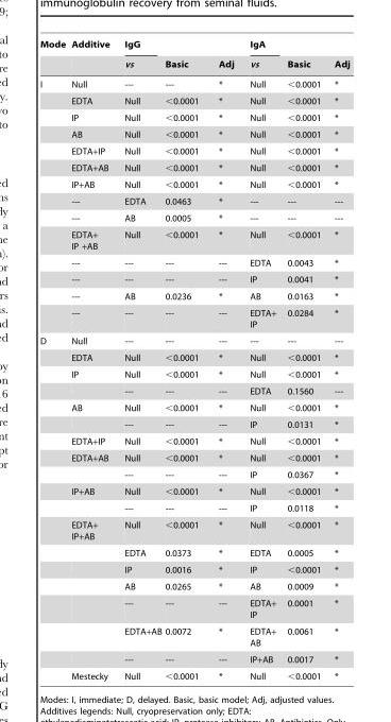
<table><thead><tr><td rowspan="2">Mode</td><td rowspan="2">Additive</td><td rowspan="2">IgG vs</td><td rowspan="2">Basic</td><td rowspan="2">Adj</td><td rowspan="2">IgA vs</td><td rowspan="2">Basic</td><td rowspan="2">Adj</td></tr><tr></tr></thead><tbody><tr><td rowspan="14">I</td><td>Null</td><td>---</td><td>---</td><td>*</td><td>Null</td><td>&lt;0.0001</td><td>*</td></tr><tr><td>EDTA</td><td>Null</td><td>&lt;0.0001</td><td>*</td><td>Null</td><td>&lt;0.0001</td><td>*</td></tr><tr><td>IP</td><td>Null</td><td>&lt;0.0001</td><td>*</td><td>Null</td><td>&lt;0.0001</td><td>*</td></tr><tr><td>AB</td><td>Null</td><td>&lt;0.0001</td><td>*</td><td>Null</td><td>&lt;0.0001</td><td>*</td></tr><tr><td>EDTA+IP</td><td>Null</td><td>&lt;0.0001</td><td>*</td><td>Null</td><td>&lt;0.0001</td><td>*</td></tr><tr><td>EDTA+AB</td><td>Null</td><td>&lt;0.0001</td><td>*</td><td>Null</td><td>&lt;0.0001</td><td>*</td></tr><tr><td>IP+AB</td><td>Null</td><td>&lt;0.0001</td><td>*</td><td>Null</td><td>&lt;0.0001</td><td>*</td></tr><tr><td>---</td><td>EDTA</td><td>0.0463</td><td>*</td><td>---</td><td>---</td><td>---</td></tr><tr><td>---</td><td>AB</td><td>0.0005</td><td>*</td><td>---</td><td>---</td><td>---</td></tr><tr><td>EDTA+ IP +AB</td><td>Null</td><td>&lt;0.0001</td><td>*</td><td>Null</td><td>&lt;0.0001</td><td>*</td></tr><tr><td>---</td><td>---</td><td>---</td><td>---</td><td>EDTA</td><td>0.0043</td><td>*</td></tr><tr><td>---</td><td>---</td><td>---</td><td>---</td><td>IP</td><td>0.0041</td><td>*</td></tr><tr><td>---</td><td>AB</td><td>0.0236</td><td>*</td><td>AB</td><td>0.0163</td><td>*</td></tr><tr><td>---</td><td>---</td><td>---</td><td>---</td><td>EDTA+ IP</td><td>0.0284</td><td>*</td></tr><tr><td rowspan="19">D</td><td>Null</td><td>---</td><td>---</td><td>---</td><td>---</td><td>---</td><td>---</td></tr><tr><td>EDTA</td><td>Null</td><td>&lt;0.0001</td><td>*</td><td>Null</td><td>&lt;0.0001</td><td>*</td></tr><tr><td>IP</td><td>Null</td><td>&lt;0.0001</td><td>*</td><td>Null</td><td>&lt;0.0001</td><td>*</td></tr><tr><td></td><td>---</td><td>---</td><td>---</td><td>EDTA</td><td>0.1560</td><td>---</td></tr><tr><td>AB</td><td>Null</td><td>&lt;0.0001</td><td>*</td><td>Null</td><td>&lt;0.0001</td><td>*</td></tr><tr><td></td><td>---</td><td>---</td><td>---</td><td>IP</td><td>0.0131</td><td>*</td></tr><tr><td>EDTA+IP</td><td>Null</td><td>&lt;0.0001</td><td>*</td><td>Null</td><td>&lt;0.0001</td><td>*</td></tr><tr><td>EDTA+AB</td><td>Null</td><td>&lt;0.0001</td><td>*</td><td>Null</td><td>&lt;0.0001</td><td>*</td></tr><tr><td></td><td>---</td><td>---</td><td>---</td><td>IP</td><td>0.0367</td><td>*</td></tr><tr><td>IP+AB</td><td>Null</td><td>&lt;0.0001</td><td>*</td><td>Null</td><td>&lt;0.0001</td><td>*</td></tr><tr><td></td><td>---</td><td>---</td><td>---</td><td>IP</td><td>0.0118</td><td>*</td></tr><tr><td>EDTA+ IP+AB</td><td>Null</td><td>&lt;0.0001</td><td>*</td><td>Null</td><td>&lt;0.0001</td><td>*</td></tr><tr><td></td><td>EDTA</td><td>0.0373</td><td>*</td><td>EDTA</td><td>0.0005</td><td>*</td></tr><tr><td></td><td>IP</td><td>0.0016</td><td>*</td><td>IP</td><td>&lt;0.0001</td><td>*</td></tr><tr><td></td><td>AB</td><td>0.0265</td><td>*</td><td>AB</td><td>0.0009</td><td>*</td></tr><tr><td></td><td>---</td><td>---</td><td>---</td><td>EDTA+ IP</td><td>0.0001</td><td>*</td></tr><tr><td></td><td>EDTA+AB</td><td>0.0072</td><td>*</td><td>EDTA+ AB</td><td>0.0061</td><td>*</td></tr><tr><td></td><td>---</td><td>---</td><td>---</td><td>IP+AB</td><td>0.0017</td><td>*</td></tr><tr><td>Mestecky</td><td>Null</td><td>&lt;0.0001</td><td>*</td><td>Null</td><td>&lt;0.0001</td><td>*</td></tr></tbody></table>